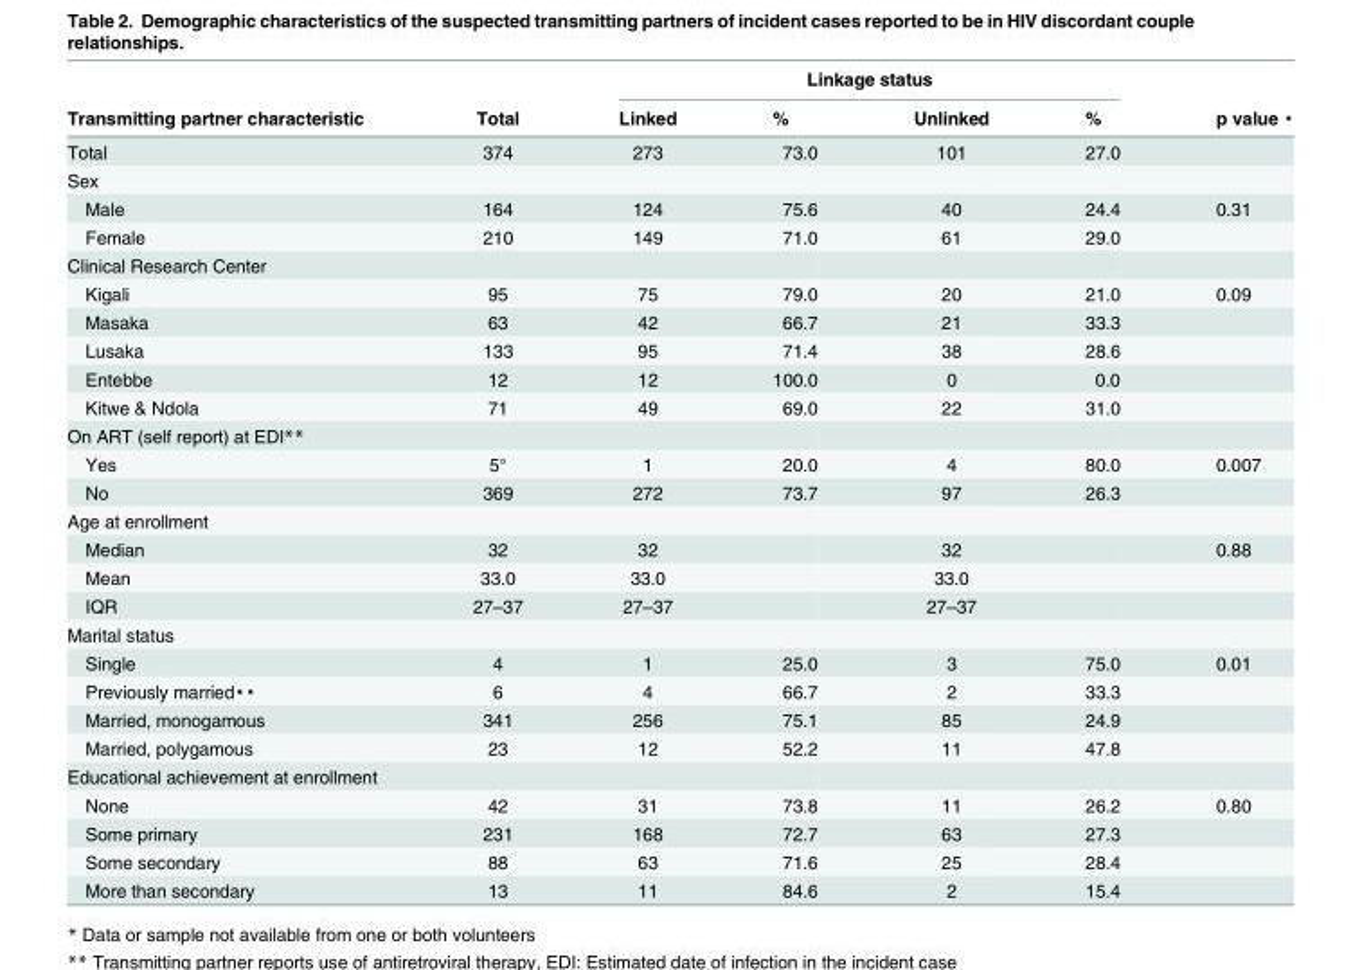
<table><thead><tr><td rowspan="2">Transmitting partner characteristic</td><td rowspan="2">Total</td><td colspan="4">Linkage status</td><td rowspan="2">p value ▪</td></tr><tr><td>Linked</td><td>%</td><td>Unlinked</td><td>%</td></tr></thead><tbody><tr><td>Total</td><td>374</td><td>273</td><td>73.0</td><td>101</td><td>27.0</td><td></td></tr><tr><td colspan="7">Sex</td></tr><tr><td>Male</td><td>164</td><td>124</td><td>75.6</td><td>40</td><td>24.4</td><td>0.31</td></tr><tr><td>Female</td><td>210</td><td>149</td><td>71.0</td><td>61</td><td>29.0</td><td></td></tr><tr><td colspan="7">Clinical Research Center</td></tr><tr><td>Kigali</td><td>95</td><td>75</td><td>79.0</td><td>20</td><td>21.0</td><td>0.09</td></tr><tr><td>Masaka</td><td>63</td><td>42</td><td>66.7</td><td>21</td><td>33.3</td><td></td></tr><tr><td>Lusaka</td><td>133</td><td>95</td><td>71.4</td><td>38</td><td>28.6</td><td></td></tr><tr><td>Entebbe</td><td>12</td><td>12</td><td>100.0</td><td>0</td><td>0.0</td><td></td></tr><tr><td>Kitwe &amp; Ndola</td><td>71</td><td>49</td><td>69.0</td><td>22</td><td>31.0</td><td></td></tr><tr><td colspan="7">On ART (self report) at EDI**</td></tr><tr><td>Yes</td><td>5°</td><td>1</td><td>20.0</td><td>4</td><td>80.0</td><td>0.007</td></tr><tr><td>No</td><td>369</td><td>272</td><td>73.7</td><td>97</td><td>26.3</td><td></td></tr><tr><td colspan="7">Age at enrollment</td></tr><tr><td>Median</td><td>32</td><td>32</td><td></td><td>32</td><td></td><td>0.88</td></tr><tr><td>Mean</td><td>33.0</td><td>33.0</td><td></td><td>33.0</td><td></td><td></td></tr><tr><td>IQR</td><td>27–37</td><td>27–37</td><td></td><td>27–37</td><td></td><td></td></tr><tr><td colspan="7">Marital status</td></tr><tr><td>Single</td><td>4</td><td>1</td><td>25.0</td><td>3</td><td>75.0</td><td>0.01</td></tr><tr><td>Previously married▪▪</td><td>6</td><td>4</td><td>66.7</td><td>2</td><td>33.3</td><td></td></tr><tr><td>Married, monogamous</td><td>341</td><td>256</td><td>75.1</td><td>85</td><td>24.9</td><td></td></tr><tr><td>Married, polygamous</td><td>23</td><td>12</td><td>52.2</td><td>11</td><td>47.8</td><td></td></tr><tr><td colspan="7">Educational achievement at enrollment</td></tr><tr><td>None</td><td>42</td><td>31</td><td>73.8</td><td>11</td><td>26.2</td><td>0.80</td></tr><tr><td>Some primary</td><td>231</td><td>168</td><td>72.7</td><td>63</td><td>27.3</td><td></td></tr><tr><td>Some secondary</td><td>88</td><td>63</td><td>71.6</td><td>25</td><td>28.4</td><td></td></tr><tr><td>More than secondary</td><td>13</td><td>11</td><td>84.6</td><td>2</td><td>15.4</td><td></td></tr></tbody></table>